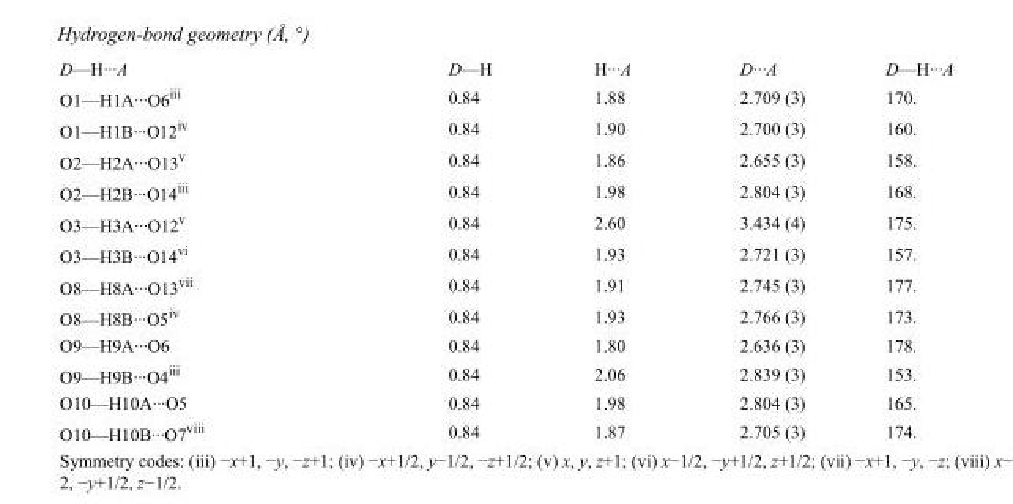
<table><tbody><tr><td>D—H···A</td><td>D—H</td><td>H···A</td><td>D···A</td><td>D—H···A</td></tr><tr><td>O1—H1A···O6<sup>iii</sup></td><td>0.84</td><td>1.88</td><td>2.709 (3)</td><td>170.</td></tr><tr><td>O1—H1B···O12<sup>iv</sup></td><td>0.84</td><td>1.90</td><td>2.700 (3)</td><td>160.</td></tr><tr><td>O2—H2A···O13<sup>v</sup></td><td>0.84</td><td>1.86</td><td>2.655 (3)</td><td>158.</td></tr><tr><td>O2—H2B···O14<sup>iii</sup></td><td>0.84</td><td>1.98</td><td>2.804 (3)</td><td>168.</td></tr><tr><td>O3—H3A···O12<sup>v</sup></td><td>0.84</td><td>2.60</td><td>3.434 (4)</td><td>175.</td></tr><tr><td>O3—H3B···O14<sup>vi</sup></td><td>0.84</td><td>1.93</td><td>2.721 (3)</td><td>157.</td></tr><tr><td>O8—H8A···O13<sup>vii</sup></td><td>0.84</td><td>1.91</td><td>2.745 (3)</td><td>177.</td></tr><tr><td>O8—H8B···O5<sup>iv</sup></td><td>0.84</td><td>1.93</td><td>2.766 (3)</td><td>173.</td></tr><tr><td>O9—H9A···O6</td><td>0.84</td><td>1.80</td><td>2.636 (3)</td><td>178.</td></tr><tr><td>O9—H9B···O4<sup>iii</sup></td><td>0.84</td><td>2.06</td><td>2.839 (3)</td><td>153.</td></tr><tr><td>O10—H10A···O5</td><td>0.84</td><td>1.98</td><td>2.804 (3)</td><td>165.</td></tr><tr><td>O10—H10B···O7<sup>viii</sup></td><td>0.84</td><td>1.87</td><td>2.705 (3)</td><td>174.</td></tr></tbody></table>